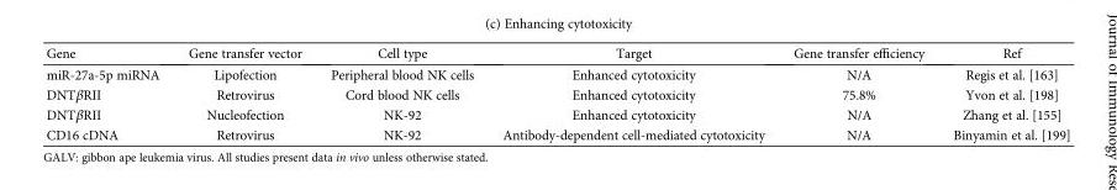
<table><thead><tr><td>Gene</td><td>Gene transfer vector</td><td>Cell type</td><td>Target</td><td>Gene transfer efficiency</td><td>Ref</td></tr></thead><tbody><tr><td>miR-27a-5p miRNA</td><td>Lipofection</td><td>Peripheral blood NK cells</td><td>Enhanced cytotoxicity</td><td>N/A</td><td>Regis et al. [163]</td></tr><tr><td>DNTβRII</td><td>Retrovirus</td><td>Cord blood NK cells</td><td>Enhanced cytotoxicity</td><td>75.8%</td><td>Yvon et al. [198]</td></tr><tr><td>DNTβRII</td><td>Nucleofection</td><td>NK-92</td><td>Enhanced cytotoxicity</td><td>N/A</td><td>Zhang et al. [155]</td></tr><tr><td>CD16 cDNA</td><td>Retrovirus</td><td>NK-92</td><td>Antibody-dependent cell-mediated cytotoxicity</td><td>N/A</td><td>Binyamin et al. [199]</td></tr></tbody></table>